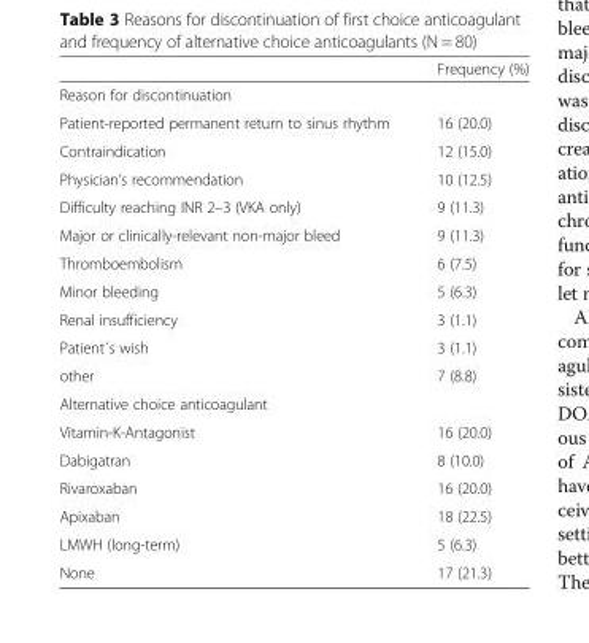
<table><thead><tr><td></td><td>Frequency (%)</td></tr></thead><tbody><tr><td colspan="2">Reason for discontinuation</td></tr><tr><td>Patient-reported permanent return to sinus rhythm</td><td>16 (20.0)</td></tr><tr><td>Contraindication</td><td>12 (15.0)</td></tr><tr><td>Physician’s recommendation</td><td>10 (12.5)</td></tr><tr><td>Difficulty reaching INR 2–3 (VKA only)</td><td>9 (11.3)</td></tr><tr><td>Major or clinically-relevant non-major bleed</td><td>9 (11.3)</td></tr><tr><td>Thromboembolism</td><td>6 (7.5)</td></tr><tr><td>Minor bleeding</td><td>5 (6.3)</td></tr><tr><td>Renal insufficiency</td><td>3 (1.1)</td></tr><tr><td>Patient´s wish</td><td>3 (1.1)</td></tr><tr><td>other</td><td>7 (8.8)</td></tr><tr><td colspan="2">Alternative choice anticoagulant</td></tr><tr><td>Vitamin-K-Antagonist</td><td>16 (20.0)</td></tr><tr><td>Dabigatran</td><td>8 (10.0)</td></tr><tr><td>Rivaroxaban</td><td>16 (20.0)</td></tr><tr><td>Apixaban</td><td>18 (22.5)</td></tr><tr><td>LMWH (long-term)</td><td>5 (6.3)</td></tr><tr><td>None</td><td>17 (21.3)</td></tr></tbody></table>